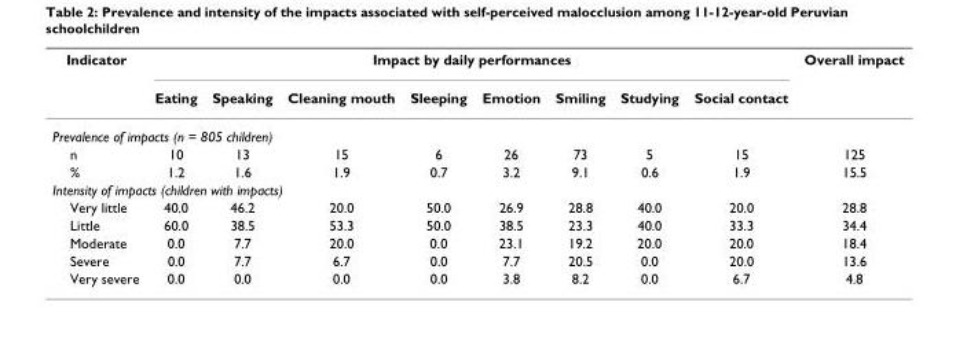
<table><thead><tr><td rowspan="2">Indicator</td><td colspan="8">Impact by daily performances</td><td rowspan="2">Overall impact</td></tr><tr><td>Eating</td><td>Speaking</td><td>Cleaning mouth</td><td>Sleeping</td><td>Emotion</td><td>Smiling</td><td>Studying</td><td>Social contact</td></tr></thead><tbody><tr><td colspan="10">Prevalence of impacts (n = 805 children)</td></tr><tr><td>n</td><td>10</td><td>13</td><td>15</td><td>6</td><td>26</td><td>73</td><td>5</td><td>15</td><td>125</td></tr><tr><td>%</td><td>1.2</td><td>1.6</td><td>1.9</td><td>0.7</td><td>3.2</td><td>9.1</td><td>0.6</td><td>1.9</td><td>15.5</td></tr><tr><td colspan="10">Intensity of impacts (children with impacts)</td></tr><tr><td>Very little</td><td>40.0</td><td>46.2</td><td>20.0</td><td>50.0</td><td>26.9</td><td>28.8</td><td>40.0</td><td>20.0</td><td>28.8</td></tr><tr><td>Little</td><td>60.0</td><td>38.5</td><td>53.3</td><td>50.0</td><td>38.5</td><td>23.3</td><td>40.0</td><td>33.3</td><td>34.4</td></tr><tr><td>Moderate</td><td>0.0</td><td>7.7</td><td>20.0</td><td>0.0</td><td>23.1</td><td>19.2</td><td>20.0</td><td>20.0</td><td>18.4</td></tr><tr><td>Severe</td><td>0.0</td><td>7.7</td><td>6.7</td><td>0.0</td><td>7.7</td><td>20.5</td><td>0.0</td><td>20.0</td><td>13.6</td></tr><tr><td>Very severe</td><td>0.0</td><td>0.0</td><td>0.0</td><td>0.0</td><td>3.8</td><td>8.2</td><td>0.0</td><td>6.7</td><td>4.8</td></tr></tbody></table>